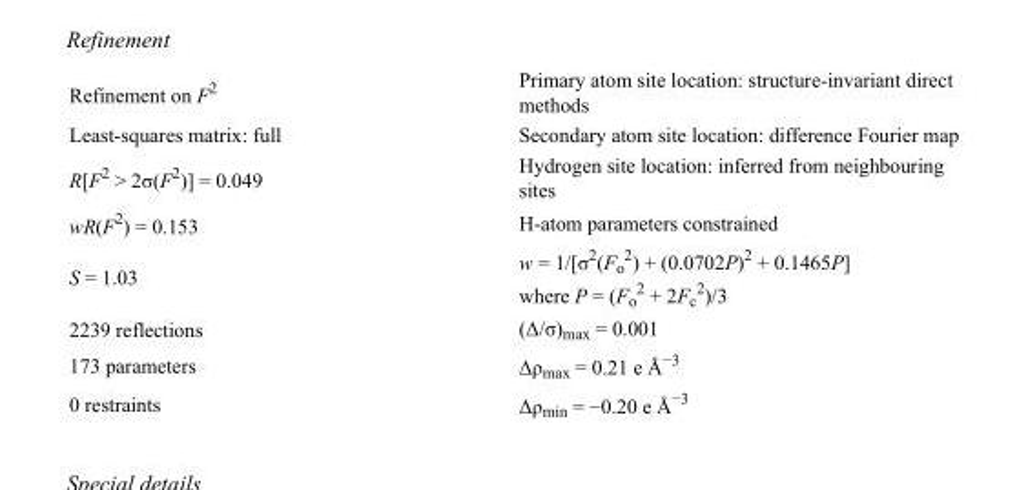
<table><tbody><tr><td>Refinement on F<sup>2</sup></td><td>Primary atom site location: structure-invariant direct methods</td></tr><tr><td>Least-squares matrix: full</td><td>Secondary atom site location: difference Fourier map</td></tr><tr><td>R[F<sup>2</sup> &gt; 2σ(F<sup>2</sup>)] = 0.049</td><td>Hydrogen site location: inferred from neighbouring sites</td></tr><tr><td>wR(F<sup>2</sup>) = 0.153</td><td>H-atom parameters constrained</td></tr><tr><td>S = 1.03</td><td>w = 1/[σ<sup>2</sup>(F<sub>o</sub> <sup>2</sup>) + (0.0702P)<sup>2</sup> + 0.1465P] where P = (F<sub>o</sub> <sup>2</sup> + 2F<sub>c</sub> <sup>2</sup>)/3</td></tr><tr><td>2239 reflections</td><td>(Δ/σ)<sub>max</sub> = 0.001</td></tr><tr><td>173 parameters</td><td>Δρ<sub>max</sub> = 0.21 e Å<sup>−3</sup></td></tr><tr><td>0 restraints</td><td>Δρ<sub>min</sub> = −0.20 e Å<sup>−3</sup></td></tr></tbody></table>